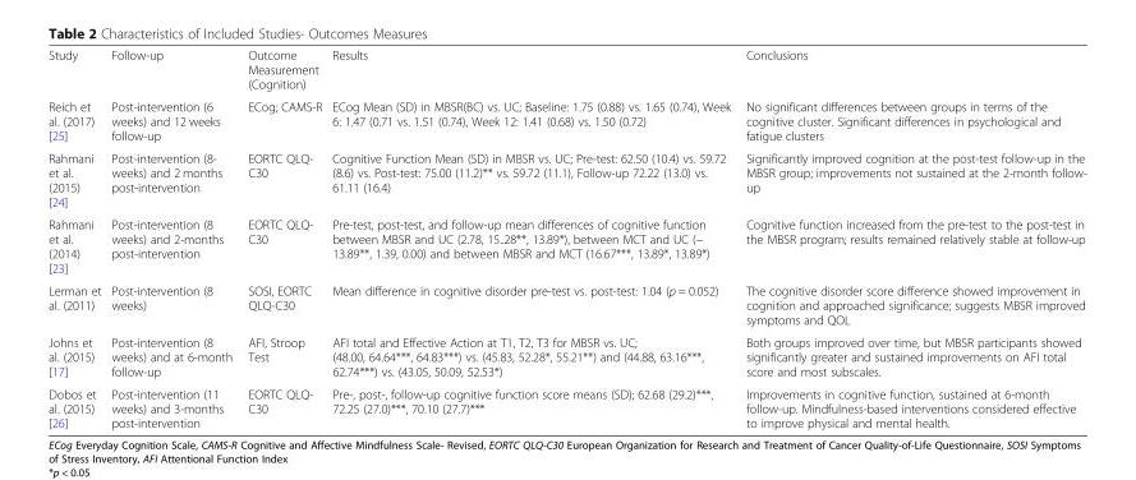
<table><tbody><tr><td>Study</td><td>Follow-up</td><td>Outcome Measurement (Cognition)</td><td>Results</td><td>Conclusions</td></tr><tr><td>Reich et al. (2017) [25]</td><td>Post-intervention (6 weeks) and 12 weeks follow-up</td><td>ECog; CAMS-R</td><td>ECog Mean (SD) in MBSR(BC) vs. UC; Baseline: 1.75 (0.88) vs. 1.65 (0.74), Week 6: 1.47 (0.71 vs. 1.51 (0.74), Week 12: 1.41 (0.68) vs. 1.50 (0.72)</td><td>No significant differences between groups in terms of the cognitive cluster. Significant differences in psychological and fatigue clusters</td></tr><tr><td>Rahmani et al. (2015) [24]</td><td>Post-intervention (8- weeks) and 2 months post-intervention</td><td>EORTC QLQ- C30</td><td>Cognitive Function Mean (SD) in MBSR vs. UC; Pre-test: 62.50 (10.4) vs. 59.72 (8.6) vs. Post-test: 75.00 (11.2)** vs. 59.72 (11.1), Follow-up 72.22 (13.0) vs. 61.11 (16.4)</td><td>Significantly improved cognition at the post-test follow-up in the MBSR group; improvements not sustained at the 2-month follow- up</td></tr><tr><td>Rahmani et al. (2014) [23]</td><td>Post-intervention (8 weeks) and 2-months post-intervention</td><td>EORTC QLQ- C30</td><td>Pre-test, post-test, and follow-up mean differences of cognitive function between MBSR and UC (2.78, 15..28**, 13.89*), between MCT and UC (− 13.89**, 1.39, 0.00) and between MBSR and MCT (16.67***, 13.89*, 13.89*)</td><td>Cognitive function increased from the pre-test to the post-test in the MBSR program; results remained relatively stable at follow-up</td></tr><tr><td>Lerman et al. (2011)</td><td>Post-intervention (8 weeks)</td><td>SOSI, EORTC QLQ-C30</td><td>Mean difference in cognitive disorder pre-test vs. post-test: 1.04 (p = 0.052)</td><td>The cognitive disorder score difference showed improvement in cognition and approached significance; suggests MBSR improved symptoms and QOL</td></tr><tr><td>Johns et al. (2015) [17]</td><td>Post-intervention (8 weeks) and at 6-month follow-up</td><td>AFI, Stroop Test</td><td>AFI total and Effective Action at T1, T2, T3 for MBSR vs. UC; (48.00, 64.64***, 64.83***) vs. (45.83, 52.28*, 55.21**) and (44.88, 63.16***, 62.74***) vs. (43.05, 50.09, 52.53*)</td><td>Both groups improved over time, but MBSR participants showed significantly greater and sustained improvements on AFI total score and most subscales.</td></tr><tr><td>Dobos et al. (2015) [26]</td><td>Post-intervention (11 weeks) and 3-months post-intervention</td><td>EORTC QLQ- C30</td><td>Pre-, post-, follow-up cognitive function score means (SD); 62.68 (29.2)***, 72.25 (27.0)***, 70.10 (27.7)***</td><td>Improvements in cognitive function, sustained at 6-month follow-up. Mindfulness-based interventions considered effective to improve physical and mental health.</td></tr></tbody></table>